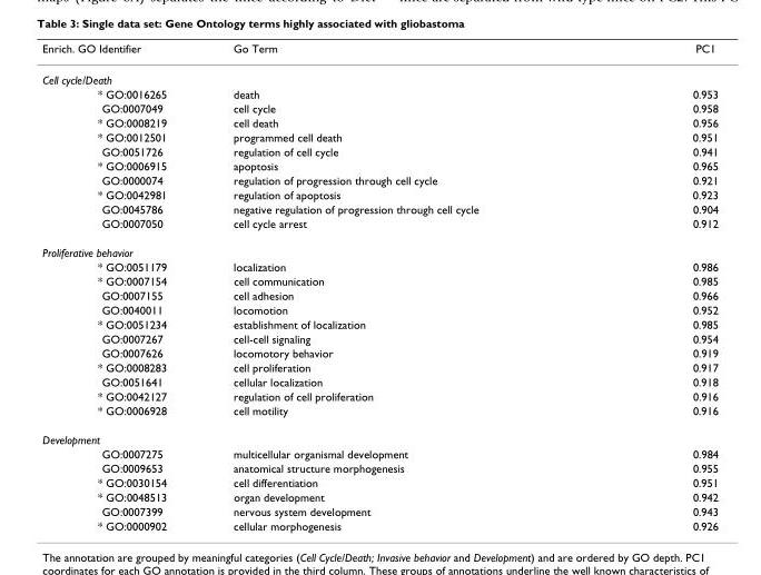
<table><thead><tr><td>Enrich. GO Identifier</td><td>Go Term</td><td>PC1</td></tr></thead><tbody><tr><td colspan="3">Cell cycle/Death</td></tr><tr><td>* GO:0016265</td><td>death</td><td>0.953</td></tr><tr><td>GO:0007049</td><td>cell cycle</td><td>0.958</td></tr><tr><td>* GO:0008219</td><td>cell death</td><td>0.956</td></tr><tr><td>* GO:0012501</td><td>programmed cell death</td><td>0.951</td></tr><tr><td>GO:0051726</td><td>regulation of cell cycle</td><td>0.941</td></tr><tr><td>* GO:0006915</td><td>apoptosis</td><td>0.965</td></tr><tr><td>GO:0000074</td><td>regulation of progression through cell cycle</td><td>0.921</td></tr><tr><td>* GO:0042981</td><td>regulation of apoptosis</td><td>0.923</td></tr><tr><td>GO:0045786</td><td>negative regulation of progression through cell cycle</td><td>0.904</td></tr><tr><td>GO:0007050</td><td>cell cycle arrest</td><td>0.912</td></tr><tr><td colspan="3">Proliferative behavior</td></tr><tr><td>* GO:0051179</td><td>localization</td><td>0.986</td></tr><tr><td>* GO:0007154</td><td>cell communication</td><td>0.985</td></tr><tr><td>GO:0007155</td><td>cell adhesion</td><td>0.966</td></tr><tr><td>GO:0040011</td><td>locomotion</td><td>0.952</td></tr><tr><td>* GO:0051234</td><td>establishment of localization</td><td>0.985</td></tr><tr><td>GO:0007267</td><td>cell-cell signaling</td><td>0.954</td></tr><tr><td>GO:0007626</td><td>locomotory behavior</td><td>0.919</td></tr><tr><td>* GO:0008283</td><td>cell proliferation</td><td>0.917</td></tr><tr><td>GO:0051641</td><td>cellular localization</td><td>0.918</td></tr><tr><td>* GO:0042127</td><td>regulation of cell proliferation</td><td>0.916</td></tr><tr><td>* GO:0006928</td><td>cell motility</td><td>0.916</td></tr><tr><td colspan="3">Development</td></tr><tr><td>GO:0007275</td><td>multicellular organismal development</td><td>0.984</td></tr><tr><td>GO:0009653</td><td>anatomical structure morphogenesis</td><td>0.955</td></tr><tr><td>* GO:0030154</td><td>cell differentiation</td><td>0.951</td></tr><tr><td>* GO:0048513</td><td>organ development</td><td>0.942</td></tr><tr><td>GO:0007399</td><td>nervous system development</td><td>0.943</td></tr><tr><td>* GO:0000902</td><td>cellular morphogenesis</td><td>0.926</td></tr></tbody></table>